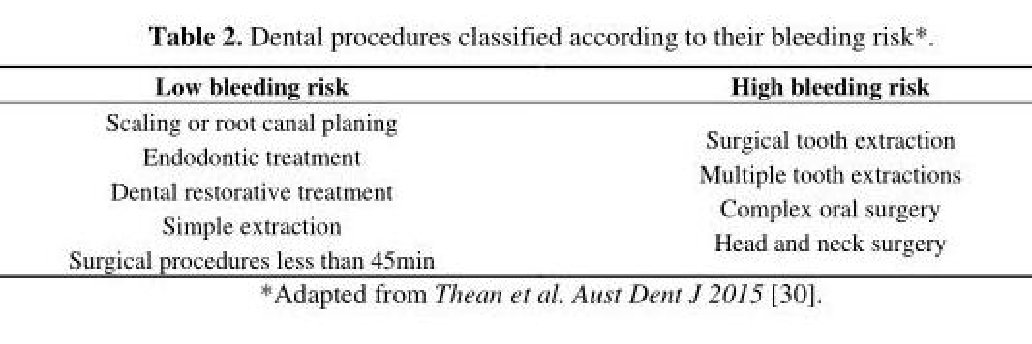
<table><thead><tr><td>Low bleeding risk</td><td>High bleeding risk</td></tr></thead><tbody><tr><td>Scaling or root canal planing Endodontic treatment Dental restorative treatment Simple extraction Surgical procedures less than 45min</td><td>Surgical tooth extraction Multiple tooth extractions Complex oral surgery Head and neck surgery</td></tr></tbody></table>